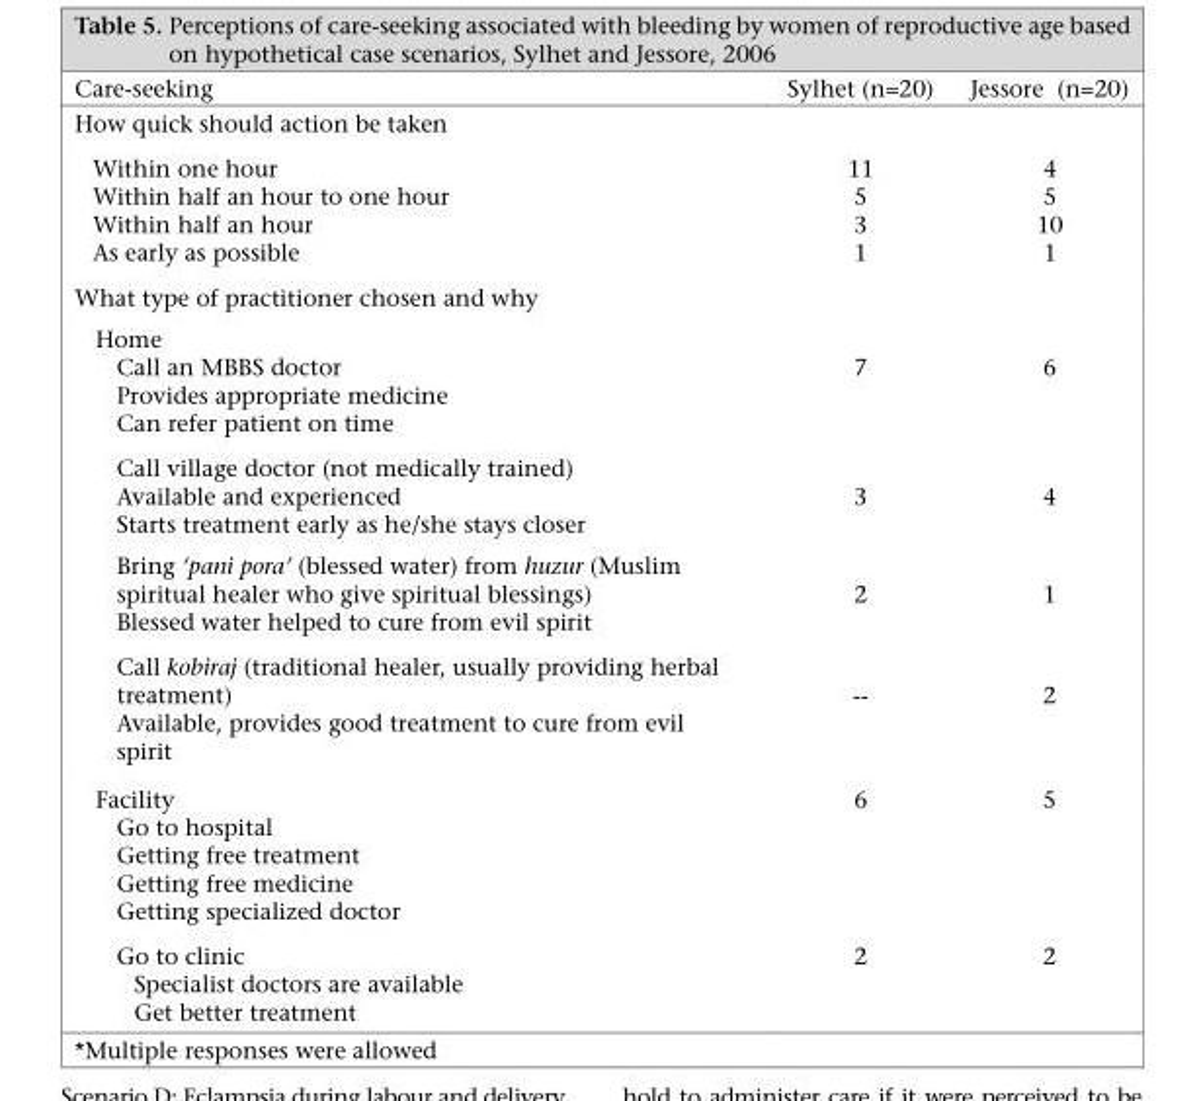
<table><thead><tr><td>Care-seeking</td><td>Sylhet (n=20)</td><td>Jessore (n=20)</td></tr></thead><tbody><tr><td colspan="3">How quick should action be taken</td></tr><tr><td>Within one hour</td><td>11</td><td>4</td></tr><tr><td>Within half an hour to one hour</td><td>5</td><td>5</td></tr><tr><td>Within half an hour</td><td>3</td><td>10</td></tr><tr><td>As early as possible</td><td>1</td><td>1</td></tr><tr><td colspan="3">What type of practitioner chosen and why</td></tr><tr><td colspan="3">Home</td></tr><tr><td>Call an MBBS doctor</td><td>7</td><td>6</td></tr><tr><td colspan="3">Provides appropriate medicine</td></tr><tr><td colspan="3">Can refer patient on time</td></tr><tr><td colspan="3">Call village doctor (not medically trained)</td></tr><tr><td>Available and experienced</td><td>3</td><td>4</td></tr><tr><td colspan="3">Starts treatment early as he/she stays closer</td></tr><tr><td>Bring ‘pani pora’ (blessed water) from huzur (Muslim spiritual healer who give spiritual blessings)</td><td>2</td><td>1</td></tr><tr><td colspan="3">Blessed water helped to cure from evil spirit</td></tr><tr><td>Call kobiraj (traditional healer, usually providing herbal treatment)</td><td>--</td><td>2</td></tr><tr><td colspan="3">Available, provides good treatment to cure from evil spirit</td></tr><tr><td>Facility</td><td>6</td><td>5</td></tr><tr><td colspan="3">Go to hospital</td></tr><tr><td colspan="3">Getting free treatment</td></tr><tr><td colspan="3">Getting free medicine</td></tr><tr><td colspan="3">Getting specialized doctor</td></tr><tr><td>Go to clinic</td><td>2</td><td>2</td></tr><tr><td colspan="3">Specialist doctors are available</td></tr><tr><td>Get better treatment</td><td></td><td></td></tr></tbody></table>